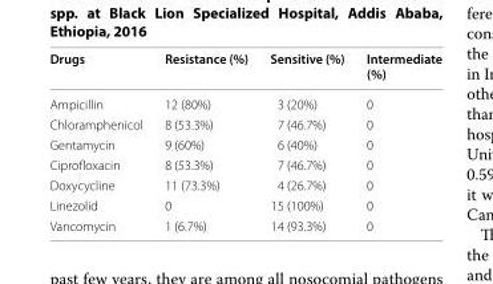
<table><thead><tr><td>Drugs</td><td>Resistance (%)</td><td>Sensitive (%)</td><td>Intermediate (%)</td></tr></thead><tbody><tr><td>Ampicillin</td><td>12 (80%)</td><td>3 (20%)</td><td>0</td></tr><tr><td>Chloramphenicol</td><td>8 (53.3%)</td><td>7 (46.7%)</td><td>0</td></tr><tr><td>Gentamycin</td><td>9 (60%)</td><td>6 (40%)</td><td>0</td></tr><tr><td>Ciprofloxacin</td><td>8 (53.3%)</td><td>7 (46.7%)</td><td>0</td></tr><tr><td>Doxycycline</td><td>11 (73.3%)</td><td>4 (26.7%)</td><td>0</td></tr><tr><td>Linezolid</td><td>0</td><td>15 (100%)</td><td>0</td></tr><tr><td>Vancomycin</td><td>1 (6.7%)</td><td>14 (93.3%)</td><td>0</td></tr></tbody></table>